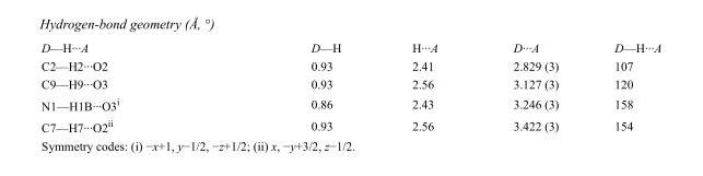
<table><tbody><tr><td>D—H···A</td><td>D—H</td><td>H···A</td><td>D···A</td><td>D—H···A</td></tr><tr><td>C2—H2···O2</td><td>0.93</td><td>2.41</td><td>2.829 (3)</td><td>107</td></tr><tr><td>C9—H9···O3</td><td>0.93</td><td>2.56</td><td>3.127 (3)</td><td>120</td></tr><tr><td>N1—H1B···O3<sup>i</sup></td><td>0.86</td><td>2.43</td><td>3.246 (3)</td><td>158</td></tr><tr><td>C7—H7···O2<sup>ii</sup></td><td>0.93</td><td>2.56</td><td>3.422 (3)</td><td>154</td></tr></tbody></table>